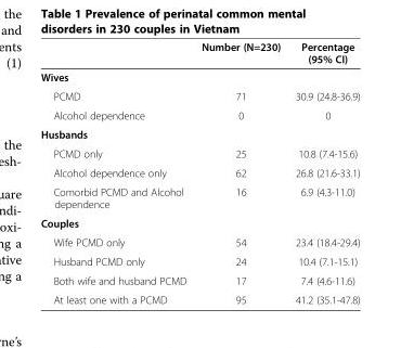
<table><thead><tr><td></td><td>Number (N=230)</td><td>Percentage (95% CI)</td></tr></thead><tbody><tr><td colspan="3">Wives</td></tr><tr><td>PCMD</td><td>71</td><td>30.9 (24.8-36.9)</td></tr><tr><td>Alcohol dependence</td><td>0</td><td>0</td></tr><tr><td colspan="3">Husbands</td></tr><tr><td>PCMD only</td><td>25</td><td>10.8 (7.4-15.6)</td></tr><tr><td>Alcohol dependence only</td><td>62</td><td>26.8 (21.6-33.1)</td></tr><tr><td>Comorbid PCMD and Alcohol dependence</td><td>16</td><td>6.9 (4.3-11.0)</td></tr><tr><td colspan="3">Couples</td></tr><tr><td>Wife PCMD only</td><td>54</td><td>23.4 (18.4-29.4)</td></tr><tr><td>Husband PCMD only</td><td>24</td><td>10.4 (7.1-15.1)</td></tr><tr><td>Both wife and husband PCMD</td><td>17</td><td>7.4 (4.6-11.6)</td></tr><tr><td>At least one with a PCMD</td><td>95</td><td>41.2 (35.1-47.8)</td></tr></tbody></table>